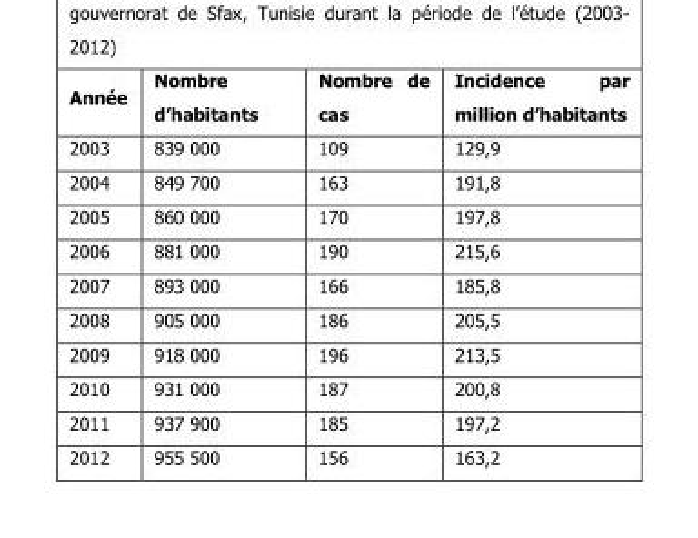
<table><thead><tr><td>Année</td><td>Nombre d’habitants</td><td>Nombre de cas</td><td>Incidence par million d’habitants</td></tr></thead><tbody><tr><td>2003</td><td>839 000</td><td>109</td><td>129,9</td></tr><tr><td>2004</td><td>849 700</td><td>163</td><td>191,8</td></tr><tr><td>2005</td><td>860 000</td><td>170</td><td>197,8</td></tr><tr><td>2006</td><td>881 000</td><td>190</td><td>215,6</td></tr><tr><td>2007</td><td>893 000</td><td>166</td><td>185,8</td></tr><tr><td>2008</td><td>905 000</td><td>186</td><td>205,5</td></tr><tr><td>2009</td><td>918 000</td><td>196</td><td>213,5</td></tr><tr><td>2010</td><td>931 000</td><td>187</td><td>200,8</td></tr><tr><td>2011</td><td>937 900</td><td>185</td><td>197,2</td></tr><tr><td>2012</td><td>955 500</td><td>156</td><td>163,2</td></tr></tbody></table>